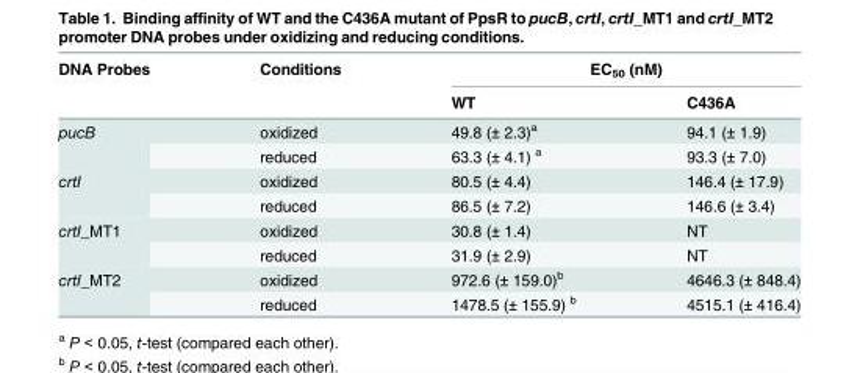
<table><thead><tr><td rowspan="2">DNA Probes</td><td rowspan="2">Conditions</td><td colspan="2">EC<sub>50</sub> (nM)</td></tr><tr><td>WT</td><td>C436A</td></tr></thead><tbody><tr><td rowspan="2">pucB</td><td>oxidized</td><td>49.8 (± 2.3)<sup>a</sup></td><td>94.1 (± 1.9)</td></tr><tr><td>reduced</td><td>63.3 (± 4.1) <sup>a</sup></td><td>93.3 (± 7.0)</td></tr><tr><td rowspan="2">crtI</td><td>oxidized</td><td>80.5 (± 4.4)</td><td>146.4 (± 17.9)</td></tr><tr><td>reduced</td><td>86.5 (± 7.2)</td><td>146.6 (± 3.4)</td></tr><tr><td rowspan="2">crtI_MT1</td><td>oxidized</td><td>30.8 (± 1.4)</td><td>NT</td></tr><tr><td>reduced</td><td>31.9 (± 2.9)</td><td>NT</td></tr><tr><td rowspan="2">crtI_MT2</td><td>oxidized</td><td>972.6 (± 159.0)<sup>b</sup></td><td>4646.3 (± 848.4)</td></tr><tr><td>reduced</td><td>1478.5 (± 155.9) <sup>b</sup></td><td>4515.1 (± 416.4)</td></tr></tbody></table>